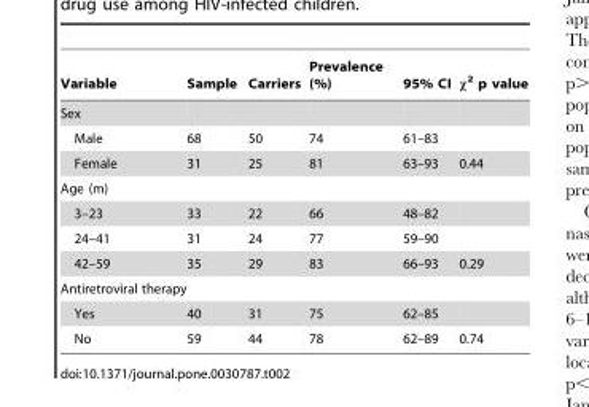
<table><thead><tr><td>Variable</td><td>Sample</td><td>Carriers</td><td>Prevalence (%)</td><td>95% CI</td><td>χ<sup>2</sup> p value</td></tr></thead><tbody><tr><td colspan="6">Sex</td></tr><tr><td>Male</td><td>68</td><td>50</td><td>74</td><td>61–83</td><td></td></tr><tr><td>Female</td><td>31</td><td>25</td><td>81</td><td>63–93</td><td>0.44</td></tr><tr><td colspan="6">Age (m)</td></tr><tr><td>3–23</td><td>33</td><td>22</td><td>66</td><td>48–82</td><td></td></tr><tr><td>24–41</td><td>31</td><td>24</td><td>77</td><td>59–90</td><td></td></tr><tr><td>42–59</td><td>35</td><td>29</td><td>83</td><td>66–93</td><td>0.29</td></tr><tr><td colspan="6">Antiretroviral therapy</td></tr><tr><td>Yes</td><td>40</td><td>31</td><td>75</td><td>62–85</td><td></td></tr><tr><td>No</td><td>59</td><td>44</td><td>78</td><td>62–89</td><td>0.74</td></tr></tbody></table>